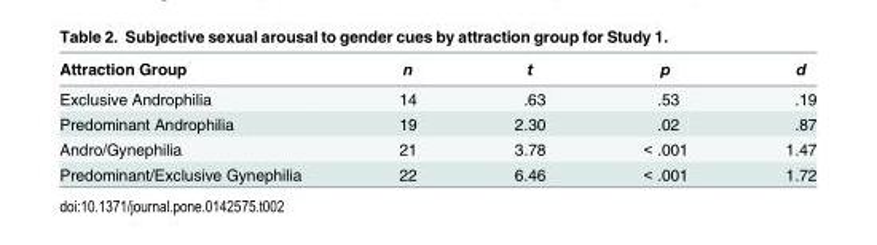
<table><thead><tr><td>Attraction Group</td><td>n</td><td>t</td><td>p</td><td>d</td></tr></thead><tbody><tr><td>Exclusive Androphilia</td><td>14</td><td>.63</td><td>.53</td><td>.19</td></tr><tr><td>Predominant Androphilia</td><td>19</td><td>2.30</td><td>.02</td><td>.87</td></tr><tr><td>Andro/Gynephilia</td><td>21</td><td>3.78</td><td>&lt; .001</td><td>1.47</td></tr><tr><td>Predominant/Exclusive Gynephilia</td><td>22</td><td>6.46</td><td>&lt; .001</td><td>1.72</td></tr></tbody></table>